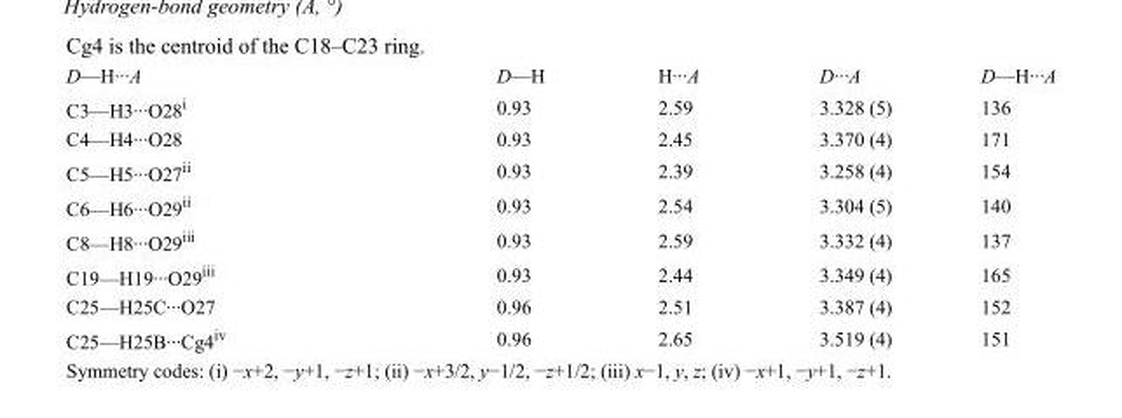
<table><tbody><tr><td>D—H···A</td><td>D—H</td><td>H···A</td><td>D···A</td><td>D—H···A</td></tr><tr><td>C3—H3···O28<sup>i</sup></td><td>0.93</td><td>2.59</td><td>3.328 (5)</td><td>136</td></tr><tr><td>C4—H4···O28</td><td>0.93</td><td>2.45</td><td>3.370 (4)</td><td>171</td></tr><tr><td>C5—H5···O27<sup>ii</sup></td><td>0.93</td><td>2.39</td><td>3.258 (4)</td><td>154</td></tr><tr><td>C6—H6···O29<sup>ii</sup></td><td>0.93</td><td>2.54</td><td>3.304 (5)</td><td>140</td></tr><tr><td>C8—H8···O29<sup>iii</sup></td><td>0.93</td><td>2.59</td><td>3.332 (4)</td><td>137</td></tr><tr><td>C19—H19···O29<sup>iii</sup></td><td>0.93</td><td>2.44</td><td>3.349 (4)</td><td>165</td></tr><tr><td>C25—H25C···O27</td><td>0.96</td><td>2.51</td><td>3.387 (4)</td><td>152</td></tr><tr><td>C25—H25B···Cg4<sup>iv</sup></td><td>0.96</td><td>2.65</td><td>3.519 (4)</td><td>151</td></tr></tbody></table>